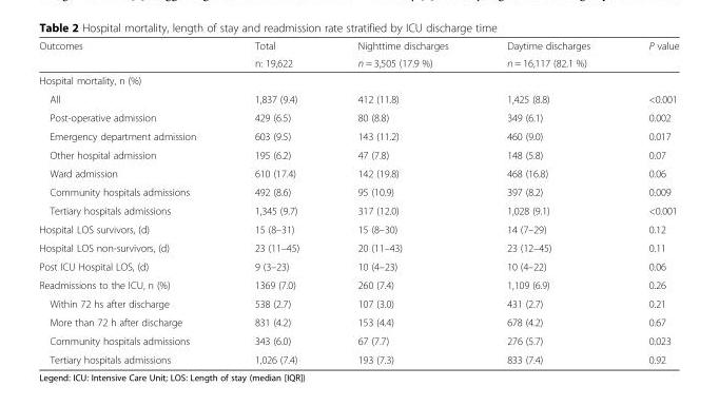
<table><thead><tr><td rowspan="2">Outcomes</td><td rowspan="2">Total n: 19,622</td><td rowspan="2">Nighttime discharges n = 3,505 (17.9 %)</td><td rowspan="2">Daytime discharges n = 16,117 (82.1 %)</td><td rowspan="2">P value</td></tr><tr></tr></thead><tbody><tr><td colspan="5">Hospital mortality, n (%)</td></tr><tr><td>All</td><td>1,837 (9.4)</td><td>412 (11.8)</td><td>1,425 (8.8)</td><td>&lt;0.001</td></tr><tr><td>Post-operative admission</td><td>429 (6.5)</td><td>80 (8.8)</td><td>349 (6.1)</td><td>0.002</td></tr><tr><td>Emergency department admission</td><td>603 (9.5)</td><td>143 (11.2)</td><td>460 (9.0)</td><td>0.017</td></tr><tr><td>Other hospital admission</td><td>195 (6.2)</td><td>47 (7.8)</td><td>148 (5.8)</td><td>0.07</td></tr><tr><td>Ward admission</td><td>610 (17.4)</td><td>142 (19.8)</td><td>468 (16.8)</td><td>0.06</td></tr><tr><td>Community hospitals admissions</td><td>492 (8.6)</td><td>95 (10.9)</td><td>397 (8.2)</td><td>0.009</td></tr><tr><td>Tertiary hospitals admissions</td><td>1,345 (9.7)</td><td>317 (12.0)</td><td>1,028 (9.1)</td><td>&lt;0.001</td></tr><tr><td>Hospital LOS survivors, (d)</td><td>15 (8–31)</td><td>15 (8–30)</td><td>14 (7–29)</td><td>0.12</td></tr><tr><td>Hospital LOS non-survivors, (d)</td><td>23 (11–45)</td><td>20 (11–43)</td><td>23 (12–45)</td><td>0.11</td></tr><tr><td>Post ICU Hospital LOS, (d)</td><td>9 (3–23)</td><td>10 (4–23)</td><td>10 (4–22)</td><td>0.06</td></tr><tr><td>Readmissions to the ICU, n (%)</td><td>1369 (7.0)</td><td>260 (7.4)</td><td>1,109 (6.9)</td><td>0.26</td></tr><tr><td>Within 72 hs after discharge</td><td>538 (2.7)</td><td>107 (3.0)</td><td>431 (2.7)</td><td>0.21</td></tr><tr><td>More than 72 h after discharge</td><td>831 (4.2)</td><td>153 (4.4)</td><td>678 (4.2)</td><td>0.67</td></tr><tr><td>Community hospitals admissions</td><td>343 (6.0)</td><td>67 (7.7)</td><td>276 (5.7)</td><td>0.023</td></tr><tr><td>Tertiary hospitals admissions</td><td>1,026 (7.4)</td><td>193 (7.3)</td><td>833 (7.4)</td><td>0.92</td></tr></tbody></table>